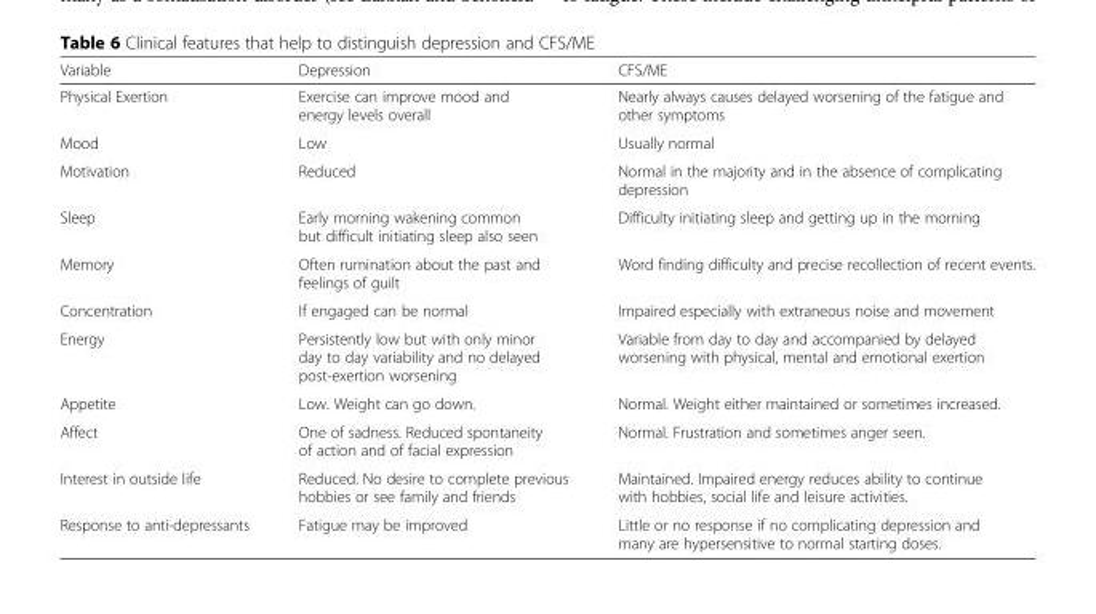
<table><thead><tr><td>Variable</td><td>Depression</td><td>CFS/ME</td></tr></thead><tbody><tr><td>Physical Exertion</td><td>Exercise can improve mood and energy levels overall</td><td>Nearly always causes delayed worsening of the fatigue and other symptoms</td></tr><tr><td>Mood</td><td>Low</td><td>Usually normal</td></tr><tr><td>Motivation</td><td>Reduced</td><td>Normal in the majority and in the absence of complicating depression</td></tr><tr><td>Sleep</td><td>Early morning wakening common but difficult initiating sleep also seen</td><td>Difficulty initiating sleep and getting up in the morning</td></tr><tr><td>Memory</td><td>Often rumination about the past and feelings of guilt</td><td>Word finding difficulty and precise recollection of recent events.</td></tr><tr><td>Concentration</td><td>If engaged can be normal</td><td>Impaired especially with extraneous noise and movement</td></tr><tr><td>Energy</td><td>Persistently low but with only minor day to day variability and no delayed post-exertion worsening</td><td>Variable from day to day and accompanied by delayed worsening with physical, mental and emotional exertion</td></tr><tr><td>Appetite</td><td>Low. Weight can go down.</td><td>Normal. Weight either maintained or sometimes increased.</td></tr><tr><td>Affect</td><td>One of sadness. Reduced spontaneity of action and of facial expression</td><td>Normal. Frustration and sometimes anger seen.</td></tr><tr><td>Interest in outside life</td><td>Reduced. No desire to complete previous hobbies or see family and friends</td><td>Maintained. Impaired energy reduces ability to continue with hobbies, social life and leisure activities.</td></tr><tr><td>Response to anti-depressants</td><td>Fatigue may be improved</td><td>Little or no response if no complicating depression and many are hypersensitive to normal starting doses.</td></tr></tbody></table>